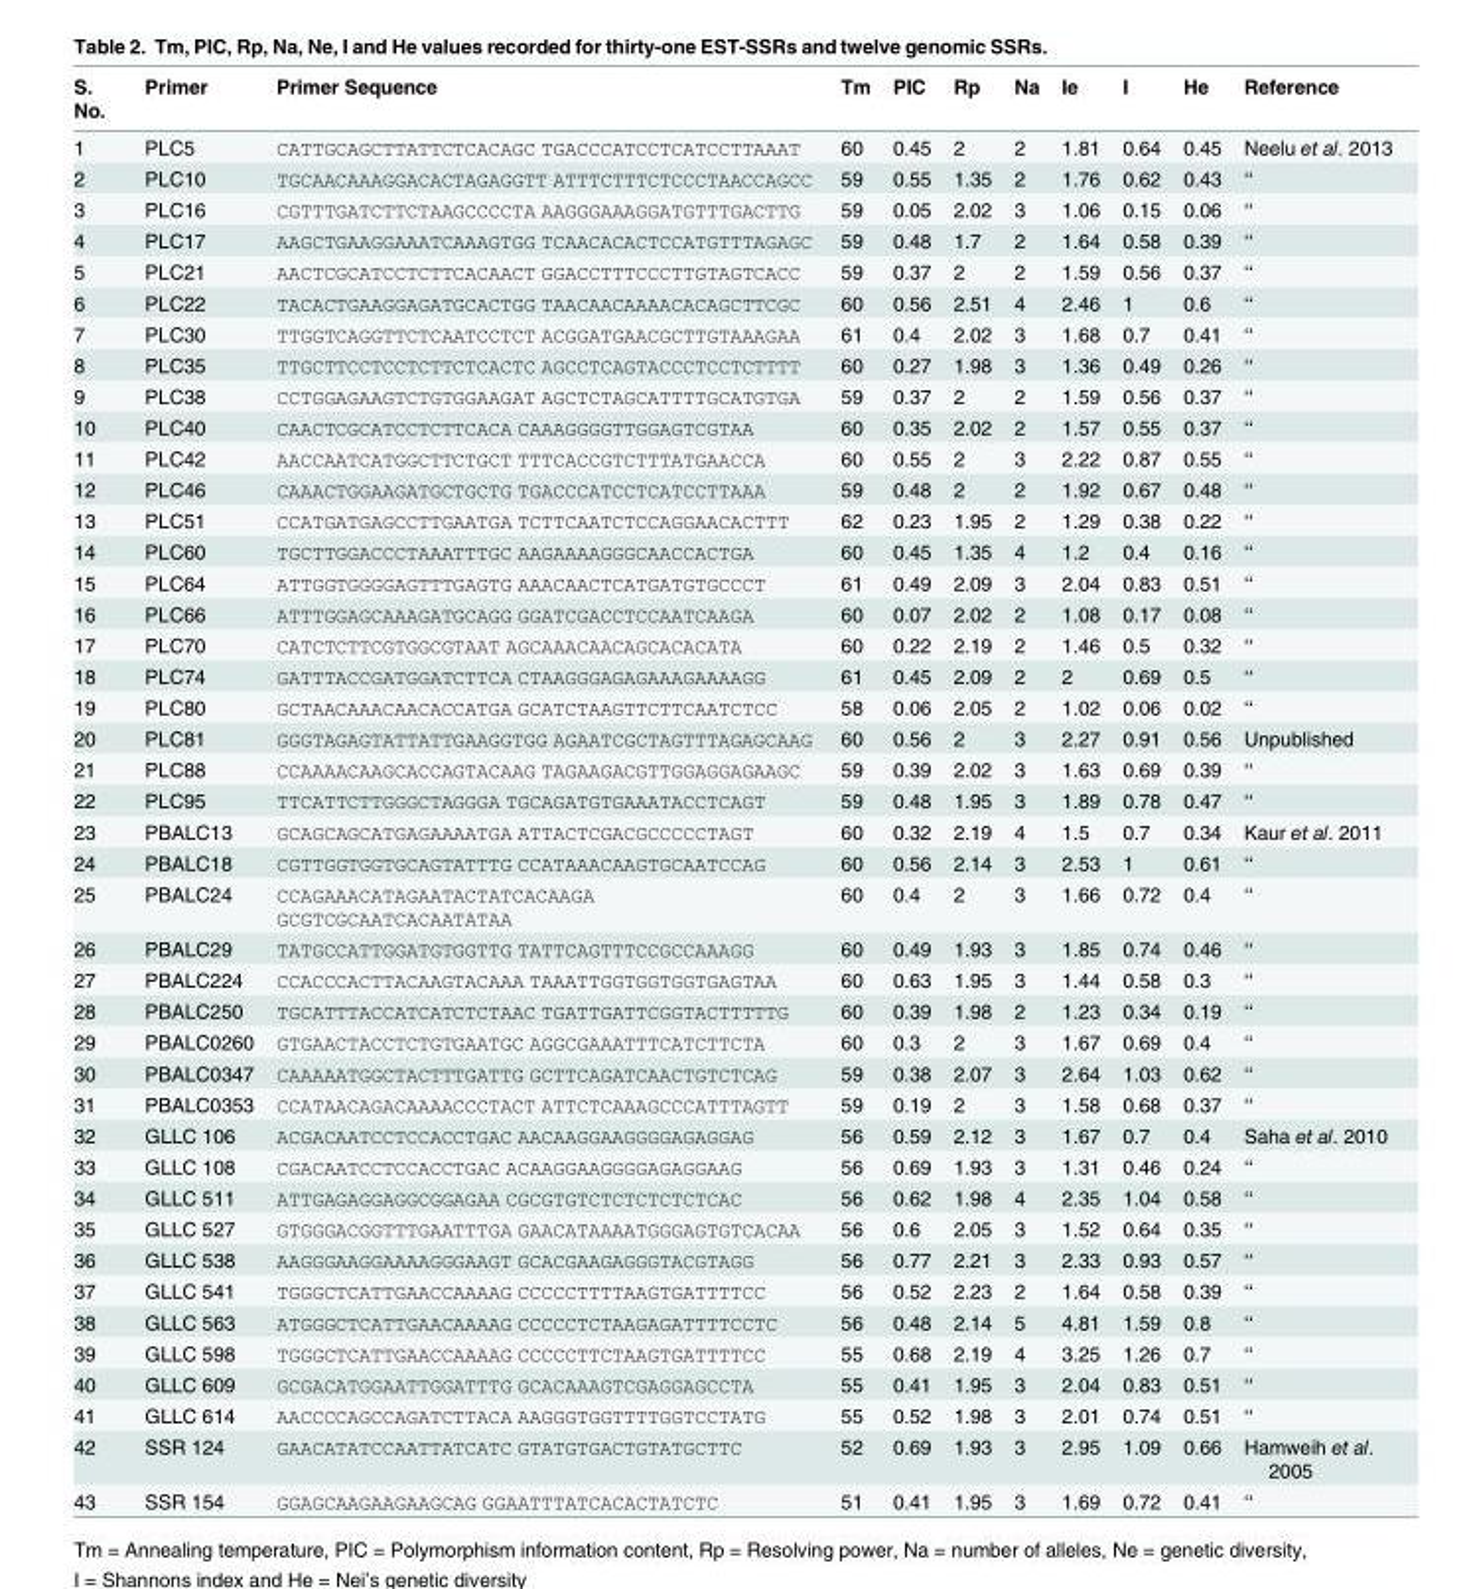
<table><thead><tr><td>S. No.</td><td>Primer</td><td>Primer Sequence</td><td>Tm</td><td>PIC</td><td>Rp</td><td>Na</td><td>Ie</td><td>I</td><td>He</td><td>Reference</td></tr></thead><tbody><tr><td>1</td><td>PLC5</td><td>CATTGCAGCTTATTCTCACAGC TGACCCATCCTCATCCTTAAAT</td><td>60</td><td>0.45</td><td>2</td><td>2</td><td>1.81</td><td>0.64</td><td>0.45</td><td>Neelu et al. 2013</td></tr><tr><td>2</td><td>PLC10</td><td>TGCAACAAAGGACACTAGAGGTT ATTTCTTTCTCCCTAACCAGCC</td><td>59</td><td>0.55</td><td>1.35</td><td>2</td><td>1.76</td><td>0.62</td><td>0.43</td><td>‘‘</td></tr><tr><td>3</td><td>PLC16</td><td>CGTTTGATCTTCTAAGCCCCTA AAGGGAAAGGATGTTTGACTTG</td><td>59</td><td>0.05</td><td>2.02</td><td>3</td><td>1.06</td><td>0.15</td><td>0.06</td><td>‘‘</td></tr><tr><td>4</td><td>PLC17</td><td>AAGCTGAAGGAAATCAAAGTGG TCAACACACTCCATGTTTAGAGC</td><td>59</td><td>0.48</td><td>1.7</td><td>2</td><td>1.64</td><td>0.58</td><td>0.39</td><td>‘‘</td></tr><tr><td>5</td><td>PLC21</td><td>AACTCGCATCCTCTTCACAACT GGACCTTTCCCTTGTAGTCACC</td><td>59</td><td>0.37</td><td>2</td><td>2</td><td>1.59</td><td>0.56</td><td>0.37</td><td>‘‘</td></tr><tr><td>6</td><td>PLC22</td><td>TACACTGAAGGAGATGCACTGG TAACAACAAAACACAGCTTCGC</td><td>60</td><td>0.56</td><td>2.51</td><td>4</td><td>2.46</td><td>1</td><td>0.6</td><td>‘‘</td></tr><tr><td>7</td><td>PLC30</td><td>TTGGTCAGGTTCTCAATCCTCT ACGGATGAACGCTTGTAAAGAA</td><td>61</td><td>0.4</td><td>2.02</td><td>3</td><td>1.68</td><td>0.7</td><td>0.41</td><td>‘‘</td></tr><tr><td>8</td><td>PLC35</td><td>TTGCTTCCTCCTCTTCTCACTC AGCCTCAGTACCCTCCTCTTTT</td><td>60</td><td>0.27</td><td>1.98</td><td>3</td><td>1.36</td><td>0.49</td><td>0.26</td><td>‘‘</td></tr><tr><td>9</td><td>PLC38</td><td>CCTGGAGAAGTCTGTGGAAGAT AGCTCTAGCATTTTGCATGTGA</td><td>59</td><td>0.37</td><td>2</td><td>2</td><td>1.59</td><td>0.56</td><td>0.37</td><td>‘‘</td></tr><tr><td>10</td><td>PLC40</td><td>CAACTCGCATCCTCTTCACA CAAAGGGGTTGGAGTCGTAA</td><td>60</td><td>0.35</td><td>2.02</td><td>2</td><td>1.57</td><td>0.55</td><td>0.37</td><td>‘‘</td></tr><tr><td>11</td><td>PLC42</td><td>AACCAATCATGGCTTCTGCT TTTCACCGTCTTTATGAACCA</td><td>60</td><td>0.55</td><td>2</td><td>3</td><td>2.22</td><td>0.87</td><td>0.55</td><td>‘‘</td></tr><tr><td>12</td><td>PLC46</td><td>CAAACTGGAAGATGCTGCTG TGACCCATCCTCATCCTTAAA</td><td>59</td><td>0.48</td><td>2</td><td>2</td><td>1.92</td><td>0.67</td><td>0.48</td><td>‘‘</td></tr><tr><td>13</td><td>PLC51</td><td>CCATGATGAGCCTTGAATGA TCTTCAATCTCCAGGAACACTTT</td><td>62</td><td>0.23</td><td>1.95</td><td>2</td><td>1.29</td><td>0.38</td><td>0.22</td><td>‘‘</td></tr><tr><td>14</td><td>PLC60</td><td>TGCTTGGACCCTAAATTTGC AAGAAAAGGGCAACCACTGA</td><td>60</td><td>0.45</td><td>1.35</td><td>4</td><td>1.2</td><td>0.4</td><td>0.16</td><td>‘‘</td></tr><tr><td>15</td><td>PLC64</td><td>ATTGGTGGGGAGTTTGAGTG AAACAACTCATGATGTGCCCT</td><td>61</td><td>0.49</td><td>2.09</td><td>3</td><td>2.04</td><td>0.83</td><td>0.51</td><td>‘‘</td></tr><tr><td>16</td><td>PLC66</td><td>ATTTGGAGCAAAGATGCAGG GGATCGACCTCCAATCAAGA</td><td>60</td><td>0.07</td><td>2.02</td><td>2</td><td>1.08</td><td>0.17</td><td>0.08</td><td>‘‘</td></tr><tr><td>17</td><td>PLC70</td><td>CATCTCTTCGTGGCGTAAT AGCAAACAACAGCACACATA</td><td>60</td><td>0.22</td><td>2.19</td><td>2</td><td>1.46</td><td>0.5</td><td>0.32</td><td>‘‘</td></tr><tr><td>18</td><td>PLC74</td><td>GATTTACCGATGGATCTTCA CTAAGGGAGAGAAAGAAAAGG</td><td>61</td><td>0.45</td><td>2.09</td><td>2</td><td>2</td><td>0.69</td><td>0.5</td><td>‘‘</td></tr><tr><td>19</td><td>PLC80</td><td>GCTAACAAACAACACCATGA GCATCTAAGTTCTTCAATCTCC</td><td>58</td><td>0.06</td><td>2.05</td><td>2</td><td>1.02</td><td>0.06</td><td>0.02</td><td>‘‘</td></tr><tr><td>20</td><td>PLC81</td><td>GGGTAGAGTATTATTGAAGGTGG AGAATCGCTAGTTTAGAGCAAG</td><td>60</td><td>0.56</td><td>2</td><td>3</td><td>2.27</td><td>0.91</td><td>0.56</td><td>Unpublished</td></tr><tr><td>21</td><td>PLC88</td><td>CCAAAACAAGCACCAGTACAAG TAGAAGACGTTGGAGGAGAAGC</td><td>59</td><td>0.39</td><td>2.02</td><td>3</td><td>1.63</td><td>0.69</td><td>0.39</td><td>‘‘</td></tr><tr><td>22</td><td>PLC95</td><td>TTCATTCTTGGGCTAGGGA TGCAGATGTGAAATACCTCAGT</td><td>59</td><td>0.48</td><td>1.95</td><td>3</td><td>1.89</td><td>0.78</td><td>0.47</td><td>‘‘</td></tr><tr><td>23</td><td>PBALC13</td><td>GCAGCAGCATGAGAAAATGA ATTACTCGACGCCCCCTAGT</td><td>60</td><td>0.32</td><td>2.19</td><td>4</td><td>1.5</td><td>0.7</td><td>0.34</td><td>Kaur et al. 2011</td></tr><tr><td>24</td><td>PBALC18</td><td>CGTTGGTGGTGCAGTATTTG CCATAAACAAGTGCAATCCAG</td><td>60</td><td>0.56</td><td>2.14</td><td>3</td><td>2.53</td><td>1</td><td>0.61</td><td>‘‘</td></tr><tr><td>25</td><td>PBALC24</td><td>CCAGAAACATAGAATACTATCACAAGA GCGTCGCAATCACAATATAA</td><td>60</td><td>0.4</td><td>2</td><td>3</td><td>1.66</td><td>0.72</td><td>0.4</td><td>‘‘</td></tr><tr><td>26</td><td>PBALC29</td><td>TATGCCATTGGATGTGGTTG TATTCAGTTTCCGCCAAAGG</td><td>60</td><td>0.49</td><td>1.93</td><td>3</td><td>1.85</td><td>0.74</td><td>0.46</td><td>‘‘</td></tr><tr><td>27</td><td>PBALC224</td><td>CCACCCACTTACAAGTACAAA TAAATTGGTGGTGGTGAGTAA</td><td>60</td><td>0.63</td><td>1.95</td><td>3</td><td>1.44</td><td>0.58</td><td>0.3</td><td>‘‘</td></tr><tr><td>28</td><td>PBALC250</td><td>TGCATTTACCATCATCTCTAAC TGATTGATTCGGTACTTTTTG</td><td>60</td><td>0.39</td><td>1.98</td><td>2</td><td>1.23</td><td>0.34</td><td>0.19</td><td>‘‘</td></tr><tr><td>29</td><td>PBALC0260</td><td>GTGAACTACCTCTGTGAATGC AGGCGAAATTTCATCTTCTA</td><td>60</td><td>0.3</td><td>2</td><td>3</td><td>1.67</td><td>0.69</td><td>0.4</td><td>‘‘</td></tr><tr><td>30</td><td>PBALC0347</td><td>CAAAAATGGCTACTTTGATTG GCTTCAGATCAACTGTCTCAG</td><td>59</td><td>0.38</td><td>2.07</td><td>3</td><td>2.64</td><td>1.03</td><td>0.62</td><td>‘‘</td></tr><tr><td>31</td><td>PBALC0353</td><td>CCATAACAGACAAAACCCTACT ATTCTCAAAGCCCATTTAGTT</td><td>59</td><td>0.19</td><td>2</td><td>3</td><td>1.58</td><td>0.68</td><td>0.37</td><td>‘‘</td></tr><tr><td>32</td><td>GLLC 106</td><td>ACGACAATCCTCCACCTGAC AACAAGGAAGGGGAGAGGAG</td><td>56</td><td>0.59</td><td>2.12</td><td>3</td><td>1.67</td><td>0.7</td><td>0.4</td><td>Saha et al. 2010</td></tr><tr><td>33</td><td>GLLC 108</td><td>CGACAATCCTCCACCTGAC ACAAGGAAGGGGAGAGGAAG</td><td>56</td><td>0.69</td><td>1.93</td><td>3</td><td>1.31</td><td>0.46</td><td>0.24</td><td>‘‘</td></tr><tr><td>34</td><td>GLLC 511</td><td>ATTGAGAGGAGGCGGAGAA CGCGTGTCTCTCTCTCTCAC</td><td>56</td><td>0.62</td><td>1.98</td><td>4</td><td>2.35</td><td>1.04</td><td>0.58</td><td>‘‘</td></tr><tr><td>35</td><td>GLLC 527</td><td>GTGGGACGGTTTGAATTTGA GAACATAAAATGGGAGTGTCACAA</td><td>56</td><td>0.6</td><td>2.05</td><td>3</td><td>1.52</td><td>0.64</td><td>0.35</td><td>‘‘</td></tr><tr><td>36</td><td>GLLC 538</td><td>AAGGGAAGGAAAAGGGAAGT GCACGAAGAGGGTACGTAGG</td><td>56</td><td>0.77</td><td>2.21</td><td>3</td><td>2.33</td><td>0.93</td><td>0.57</td><td>‘‘</td></tr><tr><td>37</td><td>GLLC 541</td><td>TGGGCTCATTGAACCAAAAG CCCCCTTTTAAGTGATTTTCC</td><td>56</td><td>0.52</td><td>2.23</td><td>2</td><td>1.64</td><td>0.58</td><td>0.39</td><td>‘‘</td></tr><tr><td>38</td><td>GLLC 563</td><td>ATGGGCTCATTGAACAAAAG CCCCCTCTAAGAGATTTTCCTC</td><td>56</td><td>0.48</td><td>2.14</td><td>5</td><td>4.81</td><td>1.59</td><td>0.8</td><td>‘‘</td></tr><tr><td>39</td><td>GLLC 598</td><td>TGGGCTCATTGAACCAAAAG CCCCCTTCTAAGTGATTTTCC</td><td>55</td><td>0.68</td><td>2.19</td><td>4</td><td>3.25</td><td>1.26</td><td>0.7</td><td>‘‘</td></tr><tr><td>40</td><td>GLLC 609</td><td>GCGACATGGAATTGGATTTG GCACAAAGTCGAGGAGCCTA</td><td>55</td><td>0.41</td><td>1.95</td><td>3</td><td>2.04</td><td>0.83</td><td>0.51</td><td>‘‘</td></tr><tr><td>41</td><td>GLLC 614</td><td>AACCCCAGCCAGATCTTACA AAGGGTGGTTTTGGTCCTATG</td><td>55</td><td>0.52</td><td>1.98</td><td>3</td><td>2.01</td><td>0.74</td><td>0.51</td><td>‘‘</td></tr><tr><td>42</td><td>SSR 124</td><td>GAACATATCCAATTATCATC GTATGTGACTGTATGCTTC</td><td>52</td><td>0.69</td><td>1.93</td><td>3</td><td>2.95</td><td>1.09</td><td>0.66</td><td>Hamweih et al. 2005</td></tr><tr><td>43</td><td>SSR 154</td><td>GGAGCAAGAAGAAGCAG GGAATTTATCACACTATCTC</td><td>51</td><td>0.41</td><td>1.95</td><td>3</td><td>1.69</td><td>0.72</td><td>0.41</td><td>‘‘</td></tr></tbody></table>